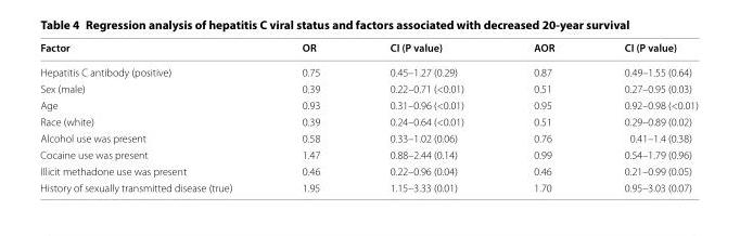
<table><thead><tr><td>Factor</td><td>OR</td><td>CI (P value)</td><td>AOR</td><td>CI (P value)</td></tr></thead><tbody><tr><td>Hepatitis C antibody (positive)</td><td>0.75</td><td>0.45–1.27 (0.29)</td><td>0.87</td><td>0.49–1.55 (0.64)</td></tr><tr><td>Sex (male)</td><td>0.39</td><td>0.22–0.71 (&lt;0.01)</td><td>0.51</td><td>0.27–0.95 (0.03)</td></tr><tr><td>Age</td><td>0.93</td><td>0.31–0.96 (&lt;0.01)</td><td>0.95</td><td>0.92–0.98 (&lt;0.01)</td></tr><tr><td>Race (white)</td><td>0.39</td><td>0.24–0.64 (&lt;0.01)</td><td>0.51</td><td>0.29–0.89 (0.02)</td></tr><tr><td>Alcohol use was present</td><td>0.58</td><td>0.33–1.02 (0.06)</td><td>0.76</td><td>0.41–1.4 (0.38)</td></tr><tr><td>Cocaine use was present</td><td>1.47</td><td>0.88–2.44 (0.14)</td><td>0.99</td><td>0.54–1.79 (0.96)</td></tr><tr><td>Illicit methadone use was present</td><td>0.46</td><td>0.22–0.96 (0.04)</td><td>0.46</td><td>0.21–0.99 (0.05)</td></tr><tr><td>History of sexually transmitted disease (true)</td><td>1.95</td><td>1.15–3.33 (0.01)</td><td>1.70</td><td>0.95–3.03 (0.07)</td></tr></tbody></table>